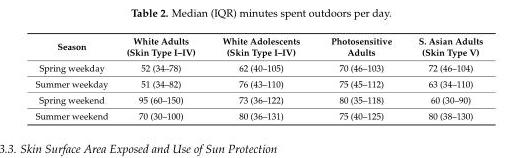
<table><thead><tr><td>Season</td><td>White Adults (Skin Type I–IV)</td><td>White Adolescents (Skin Type I–IV)</td><td>Photosensitive Adults</td><td>S. Asian Adults (Skin Type V)</td></tr></thead><tbody><tr><td>Spring weekday</td><td>52 (34–78)</td><td>62 (40–105)</td><td>70 (46–103)</td><td>72 (46–104)</td></tr><tr><td>Summer weekday</td><td>51 (34–82)</td><td>76 (43–110)</td><td>75 (45–112)</td><td>63 (34–110)</td></tr><tr><td>Spring weekend</td><td>95 (60–150)</td><td>73 (36–122)</td><td>80 (35–118)</td><td>60 (30–90)</td></tr><tr><td>Summer weekend</td><td>70 (30–100)</td><td>80 (36–131)</td><td>75 (40–125)</td><td>80 (38–130)</td></tr></tbody></table>